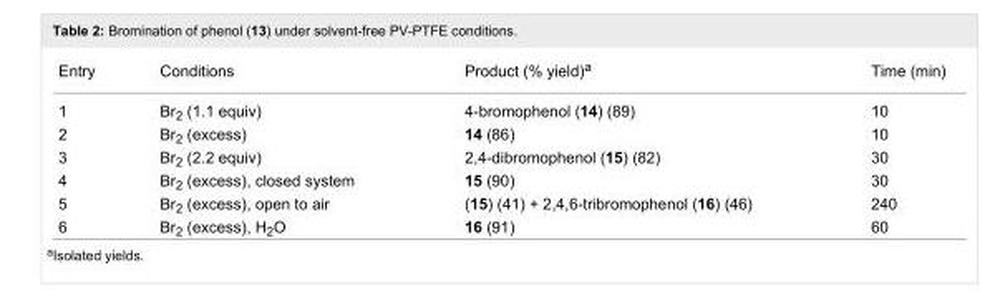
<table><tbody><tr><td>Entry</td><td>Conditions</td><td>Product (% yield)<sup>a</sup></td><td>Time (min)</td></tr><tr><td>1</td><td>Br<sub>2</sub> (1.1 equiv)</td><td>4-bromophenol (14) (89)</td><td>10</td></tr><tr><td>2</td><td>Br<sub>2</sub> (excess)</td><td>14 (86)</td><td>10</td></tr><tr><td>3</td><td>Br<sub>2</sub> (2.2 equiv)</td><td>2,4-dibromophenol (15) (82)</td><td>30</td></tr><tr><td>4</td><td>Br<sub>2</sub> (excess), closed system</td><td>15 (90)</td><td>30</td></tr><tr><td>5</td><td>Br<sub>2</sub> (excess), open to air</td><td>(15) (41) + 2,4,6-tribromophenol (16) (46)</td><td>240</td></tr><tr><td>6</td><td>Br<sub>2</sub> (excess), H<sub>2</sub>O</td><td>16 (91)</td><td>60</td></tr></tbody></table>